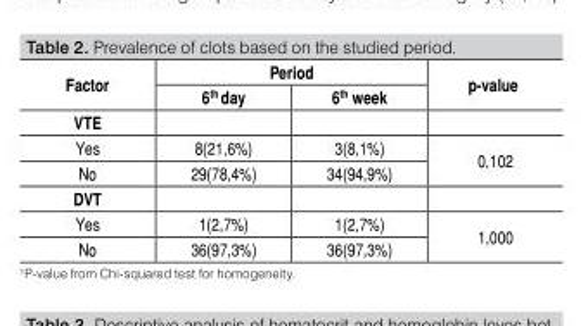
<table><tbody><tr><td rowspan="2">Factor</td><td colspan="2">Period</td><td rowspan="2">p-value¹</td></tr><tr><td>6<sup>th</sup> day</td><td>6<sup>th</sup> week</td></tr><tr><td colspan="4">VTE</td></tr><tr><td>Yes</td><td>8(21,6%)</td><td>3(8,1%)</td><td rowspan="2">0,102</td></tr><tr><td>No</td><td>29(78,4%)</td><td>34(94,9%)</td></tr><tr><td colspan="4">DVT</td></tr><tr><td>Yes</td><td>1(2,7%)</td><td>1(2,7%)</td><td rowspan="2">1,000</td></tr><tr><td>No</td><td>36(97,3%)</td><td>36(97,3%)</td></tr></tbody></table>